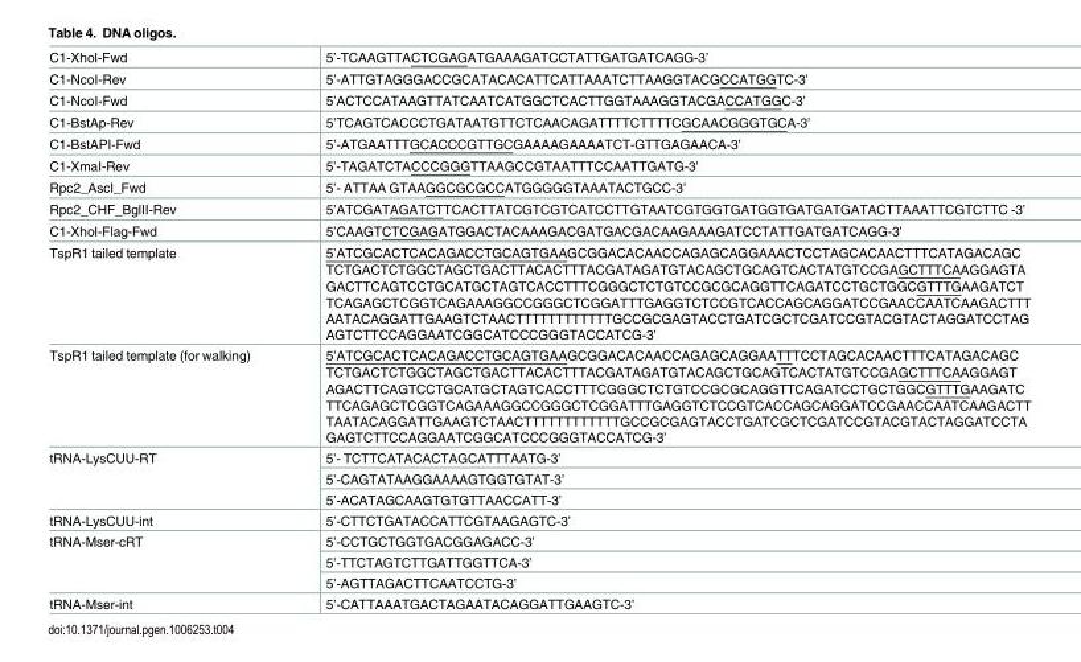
<table><tbody><tr><td>C1-XhoI-Fwd</td><td>5’-TCAAGTTACTCGAGATGAAAGATCCTATTGATGATCAGG-3’</td></tr><tr><td>C1-NcoI-Rev</td><td>5’-ATTGTAGGGACCGCATACACATTCATTAAATCTTAAGGTACGCCATGGTC-3’</td></tr><tr><td>C1-NcoI-Fwd</td><td>5’ACTCCATAAGTTATCAATCATGGCTCACTTGGTAAAGGTACGACCATGGC-3’</td></tr><tr><td>C1-BstAp-Rev</td><td>5’TCAGTCACCCTGATAATGTTCTCAACAGATTTTCTTTTCGCAACGGGTGCA-3’</td></tr><tr><td>C1-BstAPI-Fwd</td><td>5’-ATGAATTTGCACCCGTTGCGAAAAGAAAATCT-GTTGAGAACA-3’</td></tr><tr><td>C1-XmaI-Rev</td><td>5’-TAGATCTACCCGGGTTAAGCCGTAATTTCCAATTGATG-3’</td></tr><tr><td>Rpc2_AscI_Fwd</td><td>5’- ATTAA GTAAGGCGCGCCATGGGGGTAAATACTGCC-3’</td></tr><tr><td>Rpc2_CHF_BglII-Rev</td><td>5’ATCGATAGATCTTCACTTATCGTCGTCATCCTTGTAATCGTGGTGATGGTGATGATGATACTTAAATTCGTCTTC -3’</td></tr><tr><td>C1-XhoI-Flag-Fwd</td><td>5’CAAGTCTCGAGATGGACTACAAAGACGATGACGACAAGAAAGATCCTATTGATGATCAGG-3’</td></tr><tr><td>TspR1 tailed template</td><td>5’ATCGCACTCACAGACCTGCAGTGAAGCGGACACAACCAGAGCAGGAAACTCCTAGCACAACTTTCATAGACAGC TCTGACTCTGGCTAGCTGACTTACACTTTACGATAGATGTACAGCTGCAGTCACTATGTCCGAGCTTTCAAGGAGTA GACTTCAGTCCTGCATGCTAGTCACCTTTCGGGCTCTGTCCGCGCAGGTTCAGATCCTGCTGGCGTTTGAAGATCT TCAGAGCTCGGTCAGAAAGGCCGGGCTCGGATTTGAGGTCTCCGTCACCAGCAGGATCCGAACCAATCAAGACTTT AATACAGGATTGAAGTCTAACTTTTTTTTTTTTGCCGCGAGTACCTGATCGCTCGATCCGTACGTACTAGGATCCTAG AGTCTTCCAGGAATCGGCATCCCGGGTACCATCG-3’</td></tr><tr><td>TspR1 tailed template (for walking)</td><td>5’ATCGCACTCACAGACCTGCAGTGAAGCGGACACAACCAGAGCAGGAATTTCCTAGCACAACTTTCATAGACAGC TCTGACTCTGGCTAGCTGACTTACACTTTACGATAGATGTACAGCTGCAGTCACTATGTCCGAGCTTTCAAGGAGT AGACTTCAGTCCTGCATGCTAGTCACCTTTCGGGCTCTGTCCGCGCAGGTTCAGATCCTGCTGGCGTTTGAAGATC TTCAGAGCTCGGTCAGAAAGGCCGGGCTCGGATTTGAGGTCTCCGTCACCAGCAGGATCCGAACCAATCAAGACTT TAATACAGGATTGAAGTCTAACTTTTTTTTTTTTGCCGCGAGTACCTGATCGCTCGATCCGTACGTACTAGGATCCTA GAGTCTTCCAGGAATCGGCATCCCGGGTACCATCG-3’</td></tr><tr><td rowspan="3">tRNA-LysCUU-RT</td><td>5’- TCTTCATACACTAGCATTTAATG-3’</td></tr><tr><td>5’-CAGTATAAGGAAAAGTGGTGTAT-3’</td></tr><tr><td>5’-ACATAGCAAGTGTGTTAACCATT-3’</td></tr><tr><td>tRNA-LysCUU-int</td><td>5’-CTTCTGATACCATTCGTAAGAGTC-3’</td></tr><tr><td rowspan="3">tRNA-Mser-cRT</td><td>5’-CCTGCTGGTGACGGAGACC-3’</td></tr><tr><td>5’-TTCTAGTCTTGATTGGTTCA-3’</td></tr><tr><td>5’-AGTTAGACTTCAATCCTG-3’</td></tr><tr><td>tRNA-Mser-int</td><td>5’-CATTAAATGACTAGAATACAGGATTGAAGTC-3’</td></tr></tbody></table>